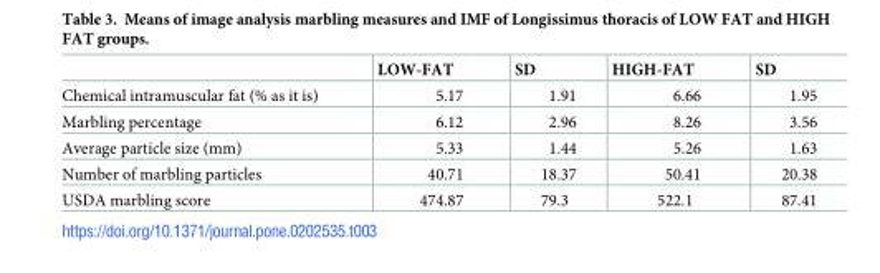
<table><thead><tr><td></td><td>LOW-FAT</td><td>SD</td><td>HIGH-FAT</td><td>SD</td></tr></thead><tbody><tr><td>Chemical intramuscular fat (% as it is)</td><td>5.17</td><td>1.91</td><td>6.66</td><td>1.95</td></tr><tr><td>Marbling percentage</td><td>6.12</td><td>2.96</td><td>8.26</td><td>3.56</td></tr><tr><td>Average particle size (mm)</td><td>5.33</td><td>1.44</td><td>5.26</td><td>1.63</td></tr><tr><td>Number of marbling particles</td><td>40.71</td><td>18.37</td><td>50.41</td><td>20.38</td></tr><tr><td>USDA marbling score</td><td>474.87</td><td>79.3</td><td>522.1</td><td>87.41</td></tr></tbody></table>